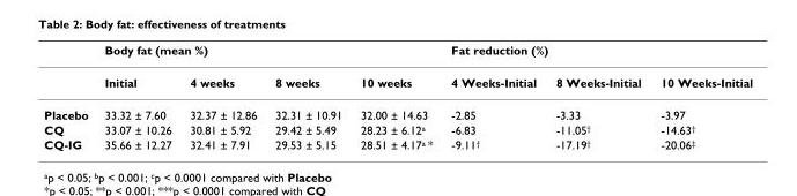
<table><thead><tr><td rowspan="2"></td><td colspan="4">Body fat (mean %)</td><td colspan="3">Fat reduction (%)</td></tr><tr><td>Initial</td><td>4 weeks</td><td>8 weeks</td><td>10 weeks</td><td>4 Weeks-Initial</td><td>8 Weeks-Initial</td><td>10 Weeks-Initial</td></tr></thead><tbody><tr><td>Placebo</td><td>33.32 ± 7.60</td><td>32.37 ± 12.86</td><td>32.31 ± 10.91</td><td>32.00 ± 14.63</td><td>-2.85</td><td>-3.33</td><td>-3.97</td></tr><tr><td>CQ</td><td>33.07 ± 10.26</td><td>30.81 ± 5.92</td><td>29.42 ± 5.49</td><td>28.23 ± 6.12<sup>a</sup></td><td>-6.83</td><td>-11.05<sup>†</sup></td><td>-14.63<sup>†</sup></td></tr><tr><td>CQ-IG</td><td>35.66 ± 12.27</td><td>32.41 ± 7.91</td><td>29.53 ± 5.15</td><td>28.51 ± 4.17<sup>a</sup> *</td><td>-9.11<sup>†</sup></td><td>-17.19<sup>†</sup></td><td>-20.06<sup>‡</sup></td></tr></tbody></table>